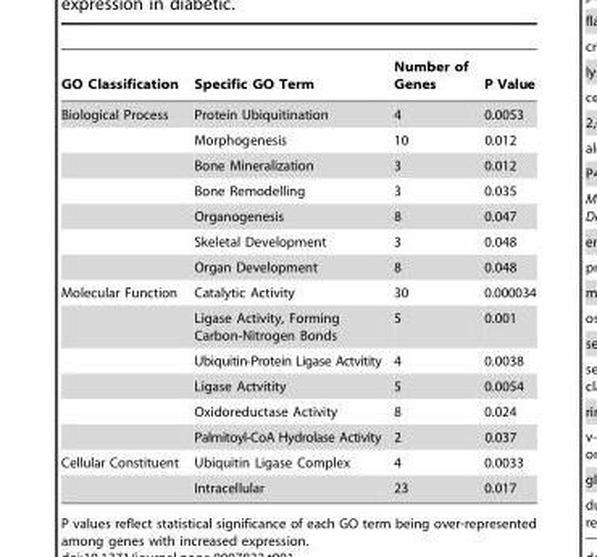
<table><thead><tr><td>GO Classification</td><td>Specific GO Term</td><td>Number of Genes</td><td>P Value</td></tr></thead><tbody><tr><td rowspan="7">Biological Process</td><td>Protein Ubiquitination</td><td>4</td><td>0.0053</td></tr><tr><td>Morphogenesis</td><td>10</td><td>0.012</td></tr><tr><td>Bone Mineralization</td><td>3</td><td>0.012</td></tr><tr><td>Bone Remodelling</td><td>3</td><td>0.035</td></tr><tr><td>Organogenesis</td><td>8</td><td>0.047</td></tr><tr><td>Skeletal Development</td><td>3</td><td>0.048</td></tr><tr><td>Organ Development</td><td>8</td><td>0.048</td></tr><tr><td rowspan="6">Molecular Function</td><td>Catalytic Activity</td><td>30</td><td>0.000034</td></tr><tr><td>Ligase Activity, Forming Carbon-Nitrogen Bonds</td><td>5</td><td>0.001</td></tr><tr><td>Ubiquitin-Protein Ligase Actvitity</td><td>4</td><td>0.0038</td></tr><tr><td>Ligase Actvitity</td><td>5</td><td>0.0054</td></tr><tr><td>Oxidoreductase Activity</td><td>8</td><td>0.024</td></tr><tr><td>Palmitoyl-CoA Hydrolase Activity</td><td>2</td><td>0.037</td></tr><tr><td rowspan="2">Cellular Constituent</td><td>Ubiquitin Ligase Complex</td><td>4</td><td>0.0033</td></tr><tr><td>Intracellular</td><td>23</td><td>0.017</td></tr></tbody></table>